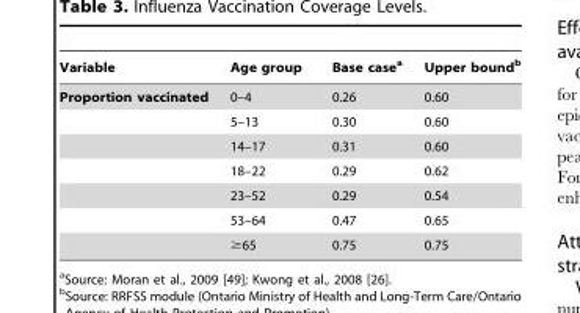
<table><thead><tr><td>Variable</td><td>Age group</td><td>Base case<sup>a</sup></td><td>Upper bound<sup>b</sup></td></tr></thead><tbody><tr><td rowspan="7">Proportion vaccinated</td><td>0–4</td><td>0.26</td><td>0.60</td></tr><tr><td>5–13</td><td>0.30</td><td>0.60</td></tr><tr><td>14–17</td><td>0.31</td><td>0.60</td></tr><tr><td>18–22</td><td>0.29</td><td>0.62</td></tr><tr><td>23–52</td><td>0.29</td><td>0.54</td></tr><tr><td>53–64</td><td>0.47</td><td>0.65</td></tr><tr><td>≥65</td><td>0.75</td><td>0.75</td></tr></tbody></table>